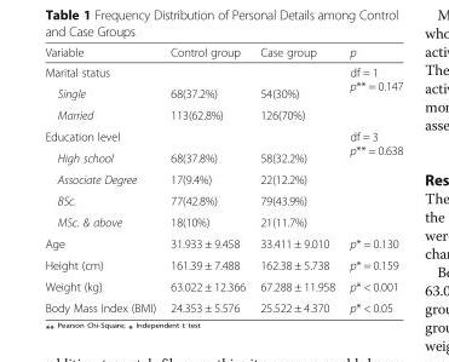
<table><thead><tr><td>Variable</td><td>Control group</td><td>Case group</td><td>p</td></tr></thead><tbody><tr><td colspan="3">Marital status</td><td rowspan="3">df = 1 p** = 0.147</td></tr><tr><td>Single</td><td>68(37.2%)</td><td>54(30%)</td></tr><tr><td>Married</td><td>113(62.8%)</td><td>126(70%)</td></tr><tr><td colspan="3">Education level</td><td rowspan="5">df = 3 p** = 0.638</td></tr><tr><td>High school</td><td>68(37.8%)</td><td>58(32.2%)</td></tr><tr><td>Associate Degree</td><td>17(9.4%)</td><td>22(12.2%)</td></tr><tr><td>BSc.</td><td>77(42.8%)</td><td>79(43.9%)</td></tr><tr><td>MSc. &amp; above</td><td>18(10%)</td><td>21(11.7%)</td></tr><tr><td>Age</td><td>31.933 ± 9.458</td><td>33.411 ± 9.010</td><td>p* = 0.130</td></tr><tr><td>Height (cm)</td><td>161.39 ± 7.488</td><td>162.38 ± 5.738</td><td>p* = 0.159</td></tr><tr><td>Weight (kg)</td><td>63.022 ± 12.366</td><td>67.288 ± 11.958</td><td>p* &lt; 0.001</td></tr><tr><td>Body Mass Index (BMI)</td><td>24.353 ± 5.576</td><td>25.522 ± 4.370</td><td>p* &lt; 0.05</td></tr></tbody></table>